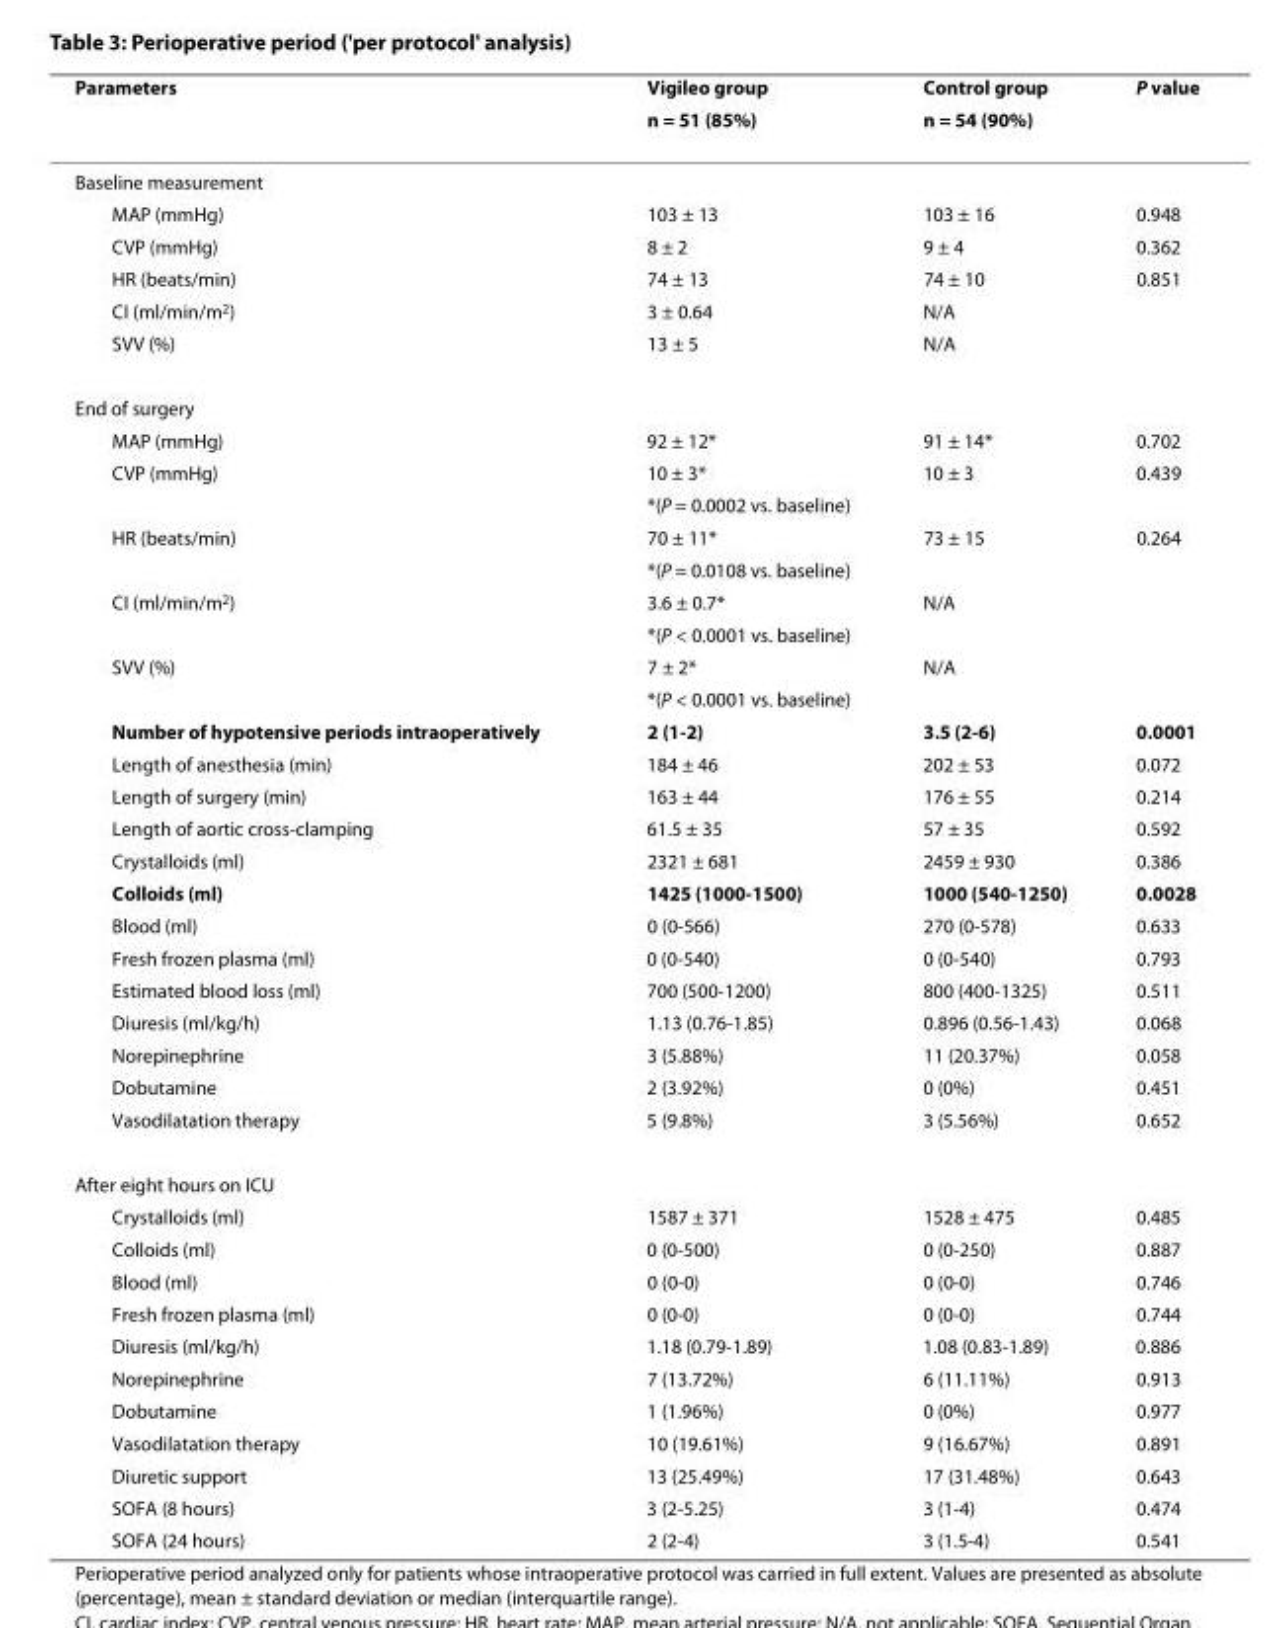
<table><thead><tr><td rowspan="2">Parameters</td><td rowspan="2">Vigileo group n = 51 (85%)</td><td rowspan="2">Control group n = 54 (90%)</td><td rowspan="2">P value</td></tr><tr></tr></thead><tbody><tr><td colspan="4">Baseline measurement</td></tr><tr><td>MAP (mmHg)</td><td>103 ± 13</td><td>103 ± 16</td><td>0.948</td></tr><tr><td>CVP (mmHg)</td><td>8 ± 2</td><td>9 ± 4</td><td>0.362</td></tr><tr><td>HR (beats/min)</td><td>74 ± 13</td><td>74 ± 10</td><td>0.851</td></tr><tr><td>CI (ml/min/m<sup>2</sup>)</td><td>3 ± 0.64</td><td>N/A</td><td></td></tr><tr><td>SVV (%)</td><td>13 ± 5</td><td>N/A</td><td></td></tr><tr><td colspan="4">End of surgery</td></tr><tr><td>MAP (mmHg)</td><td>92 ± 12*</td><td>91 ± 14*</td><td>0.702</td></tr><tr><td rowspan="2">CVP (mmHg)</td><td>10 ± 3*</td><td>10 ± 3</td><td>0.439</td></tr><tr><td>*(P = 0.0002 vs. baseline)</td><td></td><td></td></tr><tr><td rowspan="2">HR (beats/min)</td><td>70 ± 11*</td><td>73 ± 15</td><td>0.264</td></tr><tr><td>*(P = 0.0108 vs. baseline)</td><td></td><td></td></tr><tr><td rowspan="2">CI (ml/min/m<sup>2</sup>)</td><td>3.6 ± 0.7*</td><td>N/A</td><td></td></tr><tr><td>*(P &lt; 0.0001 vs. baseline)</td><td></td><td></td></tr><tr><td rowspan="2">SVV (%)</td><td>7 ± 2*</td><td>N/A</td><td></td></tr><tr><td>*(P &lt; 0.0001 vs. baseline)</td><td></td><td></td></tr><tr><td>Number of hypotensive periods intraoperatively</td><td>2 (1-2)</td><td>3.5 (2-6)</td><td>0.0001</td></tr><tr><td>Length of anesthesia (min)</td><td>184 ± 46</td><td>202 ± 53</td><td>0.072</td></tr><tr><td>Length of surgery (min)</td><td>163 ± 44</td><td>176 ± 55</td><td>0.214</td></tr><tr><td>Length of aortic cross-clamping</td><td>61.5 ± 35</td><td>57 ± 35</td><td>0.592</td></tr><tr><td>Crystalloids (ml)</td><td>2321 ± 681</td><td>2459 ± 930</td><td>0.386</td></tr><tr><td>Colloids (ml)</td><td>1425 (1000-1500)</td><td>1000 (540-1250)</td><td>0.0028</td></tr><tr><td>Blood (ml)</td><td>0 (0-566)</td><td>270 (0-578)</td><td>0.633</td></tr><tr><td>Fresh frozen plasma (ml)</td><td>0 (0-540)</td><td>0 (0-540)</td><td>0.793</td></tr><tr><td>Estimated blood loss (ml)</td><td>700 (500-1200)</td><td>800 (400-1325)</td><td>0.511</td></tr><tr><td>Diuresis (ml/kg/h)</td><td>1.13 (0.76-1.85)</td><td>0.896 (0.56-1.43)</td><td>0.068</td></tr><tr><td>Norepinephrine</td><td>3 (5.88%)</td><td>11 (20.37%)</td><td>0.058</td></tr><tr><td>Dobutamine</td><td>2 (3.92%)</td><td>0 (0%)</td><td>0.451</td></tr><tr><td>Vasodilatation therapy</td><td>5 (9.8%)</td><td>3 (5.56%)</td><td>0.652</td></tr><tr><td colspan="4">After eight hours on ICU</td></tr><tr><td>Crystalloids (ml)</td><td>1587 ± 371</td><td>1528 ± 475</td><td>0.485</td></tr><tr><td>Colloids (ml)</td><td>0 (0-500)</td><td>0 (0-250)</td><td>0.887</td></tr><tr><td>Blood (ml)</td><td>0 (0-0)</td><td>0 (0-0)</td><td>0.746</td></tr><tr><td>Fresh frozen plasma (ml)</td><td>0 (0-0)</td><td>0 (0-0)</td><td>0.744</td></tr><tr><td>Diuresis (ml/kg/h)</td><td>1.18 (0.79-1.89)</td><td>1.08 (0.83-1.89)</td><td>0.886</td></tr><tr><td>Norepinephrine</td><td>7 (13.72%)</td><td>6 (11.11%)</td><td>0.913</td></tr><tr><td>Dobutamine</td><td>1 (1.96%)</td><td>0 (0%)</td><td>0.977</td></tr><tr><td>Vasodilatation therapy</td><td>10 (19.61%)</td><td>9 (16.67%)</td><td>0.891</td></tr><tr><td>Diuretic support</td><td>13 (25.49%)</td><td>17 (31.48%)</td><td>0.643</td></tr><tr><td>SOFA (8 hours)</td><td>3 (2-5.25)</td><td>3 (1-4)</td><td>0.474</td></tr><tr><td>SOFA (24 hours)</td><td>2 (2-4)</td><td>3 (1.5-4)</td><td>0.541</td></tr></tbody></table>